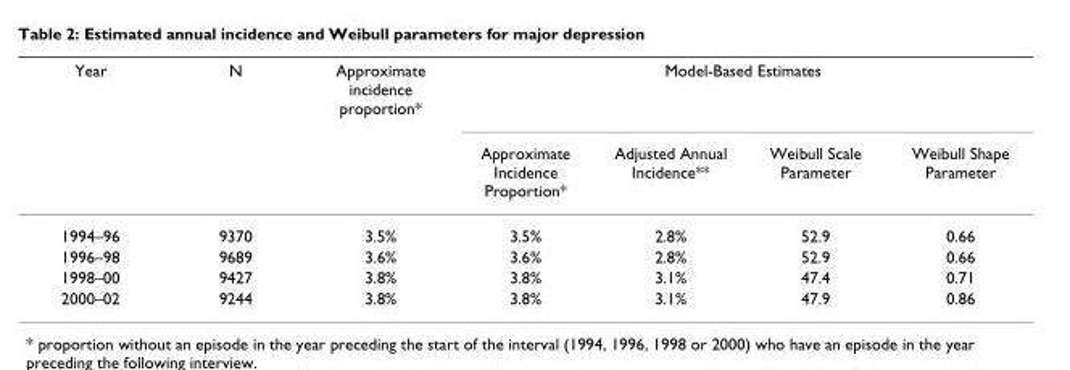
<table><thead><tr><td rowspan="2">Year</td><td rowspan="2">N</td><td rowspan="2">Approximate incidence proportion*</td><td colspan="4">Model-Based Estimates</td></tr><tr><td>Approximate Incidence Proportion*</td><td>Adjusted Annual Incidence**</td><td>Weibull Scale Parameter</td><td>Weibull Shape Parameter</td></tr></thead><tbody><tr><td>1994–96</td><td>9370</td><td>3.5%</td><td>3.5%</td><td>2.8%</td><td>52.9</td><td>0.66</td></tr><tr><td>1996–98</td><td>9689</td><td>3.6%</td><td>3.6%</td><td>2.8%</td><td>52.9</td><td>0.66</td></tr><tr><td>1998–00</td><td>9427</td><td>3.8%</td><td>3.8%</td><td>3.1%</td><td>47.4</td><td>0.71</td></tr><tr><td>2000–02</td><td>9244</td><td>3.8%</td><td>3.8%</td><td>3.1%</td><td>47.9</td><td>0.86</td></tr></tbody></table>